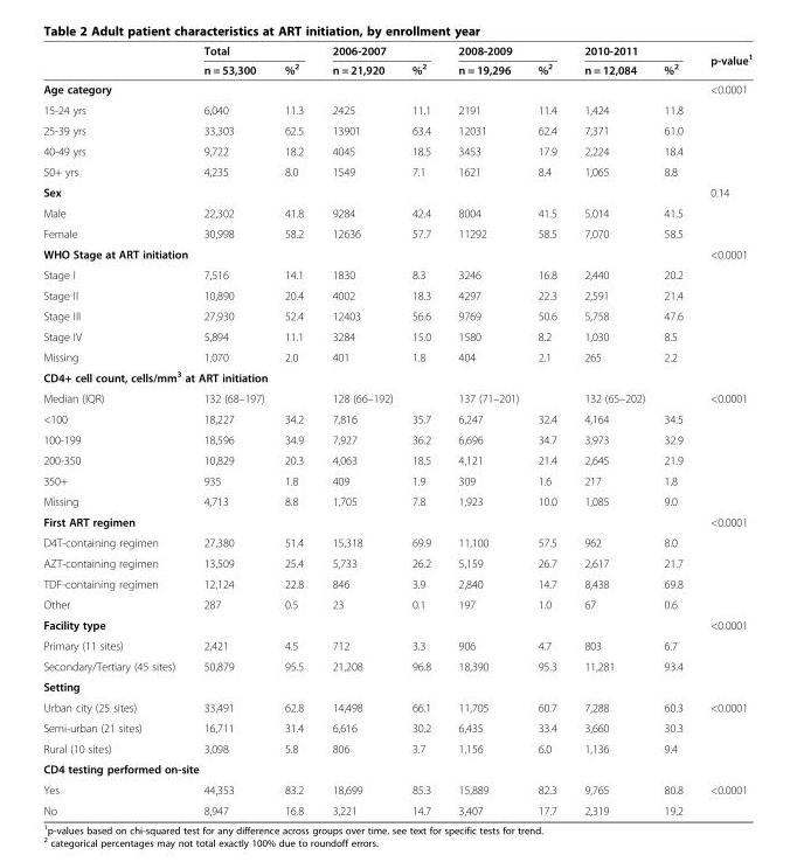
<table><thead><tr><td rowspan="2"></td><td colspan="2">Total</td><td colspan="2">2006-2007</td><td colspan="2">2008-2009</td><td colspan="2">2010-2011</td><td rowspan="2">p-value<sup>1</sup></td></tr><tr><td>n = 53,300</td><td>%<sup>2</sup></td><td>n = 21,920</td><td>%<sup>2</sup></td><td>n = 19,296</td><td>%<sup>2</sup></td><td>n = 12,084</td><td>%<sup>2</sup></td></tr></thead><tbody><tr><td>Age category</td><td></td><td></td><td></td><td></td><td></td><td></td><td></td><td></td><td>&lt;0.0001</td></tr><tr><td>15-24 yrs</td><td>6,040</td><td>11.3</td><td>2425</td><td>11.1</td><td>2191</td><td>11.4</td><td>1,424</td><td>11.8</td><td></td></tr><tr><td>25-39 yrs</td><td>33,303</td><td>62.5</td><td>13901</td><td>63.4</td><td>12031</td><td>62.4</td><td>7,371</td><td>61.0</td><td></td></tr><tr><td>40-49 yrs</td><td>9,722</td><td>18.2</td><td>4045</td><td>18.5</td><td>3453</td><td>17.9</td><td>2,224</td><td>18.4</td><td></td></tr><tr><td>50+ yrs</td><td>4,235</td><td>8.0</td><td>1549</td><td>7.1</td><td>1621</td><td>8.4</td><td>1,065</td><td>8.8</td><td></td></tr><tr><td>Sex</td><td></td><td></td><td></td><td></td><td></td><td></td><td></td><td></td><td>0.14</td></tr><tr><td>Male</td><td>22,302</td><td>41.8</td><td>9284</td><td>42.4</td><td>8004</td><td>41.5</td><td>5,014</td><td>41.5</td><td></td></tr><tr><td>Female</td><td>30,998</td><td>58.2</td><td>12636</td><td>57.7</td><td>11292</td><td>58.5</td><td>7,070</td><td>58.5</td><td></td></tr><tr><td colspan="2">WHO Stage at ART initiation</td><td></td><td></td><td></td><td></td><td></td><td></td><td></td><td>&lt;0.0001</td></tr><tr><td>Stage I</td><td>7,516</td><td>14.1</td><td>1830</td><td>8.3</td><td>3246</td><td>16.8</td><td>2,440</td><td>20.2</td><td></td></tr><tr><td>Stage II</td><td>10,890</td><td>20.4</td><td>4002</td><td>18.3</td><td>4297</td><td>22.3</td><td>2,591</td><td>21.4</td><td></td></tr><tr><td>Stage III</td><td>27,930</td><td>52.4</td><td>12403</td><td>56.6</td><td>9769</td><td>50.6</td><td>5,758</td><td>47.6</td><td></td></tr><tr><td>Stage IV</td><td>5,894</td><td>11.1</td><td>3284</td><td>15.0</td><td>1580</td><td>8.2</td><td>1,030</td><td>8.5</td><td></td></tr><tr><td>Missing</td><td>1,070</td><td>2.0</td><td>401</td><td>1.8</td><td>404</td><td>2.1</td><td>265</td><td>2.2</td><td></td></tr><tr><td colspan="10">CD4+ cell count, cells/mm<sup>3</sup> at ART initiation</td></tr><tr><td>Median (IQR)</td><td colspan="2">132 (68–197)</td><td colspan="2">128 (66–192)</td><td colspan="2">137 (71–201)</td><td colspan="2">132 (65–202)</td><td>&lt;0.0001</td></tr><tr><td>&lt;100</td><td>18,227</td><td>34.2</td><td>7,816</td><td>35.7</td><td>6,247</td><td>32.4</td><td>4,164</td><td>34.5</td><td></td></tr><tr><td>100-199</td><td>18,596</td><td>34.9</td><td>7,927</td><td>36.2</td><td>6,696</td><td>34.7</td><td>3,973</td><td>32.9</td><td></td></tr><tr><td>200-350</td><td>10,829</td><td>20.3</td><td>4,063</td><td>18.5</td><td>4,121</td><td>21.4</td><td>2,645</td><td>21.9</td><td></td></tr><tr><td>350+</td><td>935</td><td>1.8</td><td>409</td><td>1.9</td><td>309</td><td>1.6</td><td>217</td><td>1.8</td><td></td></tr><tr><td>Missing</td><td>4,713</td><td>8.8</td><td>1,705</td><td>7.8</td><td>1,923</td><td>10.0</td><td>1,085</td><td>9.0</td><td></td></tr><tr><td>First ART regimen</td><td></td><td></td><td></td><td></td><td></td><td></td><td></td><td></td><td>&lt;0.0001</td></tr><tr><td>D4T-containing regimen</td><td>27,380</td><td>51.4</td><td>15,318</td><td>69.9</td><td>11,100</td><td>57.5</td><td>962</td><td>8.0</td><td></td></tr><tr><td>AZT-containing regimen</td><td>13,509</td><td>25.4</td><td>5,733</td><td>26.2</td><td>5,159</td><td>26.7</td><td>2,617</td><td>21.7</td><td></td></tr><tr><td>TDF-containing regimen</td><td>12,124</td><td>22.8</td><td>846</td><td>3.9</td><td>2,840</td><td>14.7</td><td>8,438</td><td>69.8</td><td></td></tr><tr><td>Other</td><td>287</td><td>0.5</td><td>23</td><td>0.1</td><td>197</td><td>1.0</td><td>67</td><td>0.6</td><td></td></tr><tr><td>Facility type</td><td></td><td></td><td></td><td></td><td></td><td></td><td></td><td></td><td>&lt;0.0001</td></tr><tr><td>Primary (11 sites)</td><td>2,421</td><td>4.5</td><td>712</td><td>3.3</td><td>906</td><td>4.7</td><td>803</td><td>6.7</td><td></td></tr><tr><td>Secondary/Tertiary (45 sites)</td><td>50,879</td><td>95.5</td><td>21,208</td><td>96.8</td><td>18,390</td><td>95.3</td><td>11,281</td><td>93.4</td><td></td></tr><tr><td colspan="10">Setting</td></tr><tr><td>Urban city (25 sites)</td><td>33,491</td><td>62.8</td><td>14,498</td><td>66.1</td><td>11,705</td><td>60.7</td><td>7,288</td><td>60.3</td><td>&lt;0.0001</td></tr><tr><td>Semi-urban (21 sites)</td><td>16,711</td><td>31.4</td><td>6,616</td><td>30.2</td><td>6,435</td><td>33.4</td><td>3,660</td><td>30.3</td><td></td></tr><tr><td>Rural (10 sites)</td><td>3,098</td><td>5.8</td><td>806</td><td>3.7</td><td>1,156</td><td>6.0</td><td>1,136</td><td>9.4</td><td></td></tr><tr><td colspan="10">CD4 testing performed on-site</td></tr><tr><td>Yes</td><td>44,353</td><td>83.2</td><td>18,699</td><td>85.3</td><td>15,889</td><td>82.3</td><td>9,765</td><td>80.8</td><td>&lt;0.0001</td></tr><tr><td>No</td><td>8,947</td><td>16.8</td><td>3,221</td><td>14.7</td><td>3,407</td><td>17.7</td><td>2,319</td><td>19.2</td><td></td></tr></tbody></table>